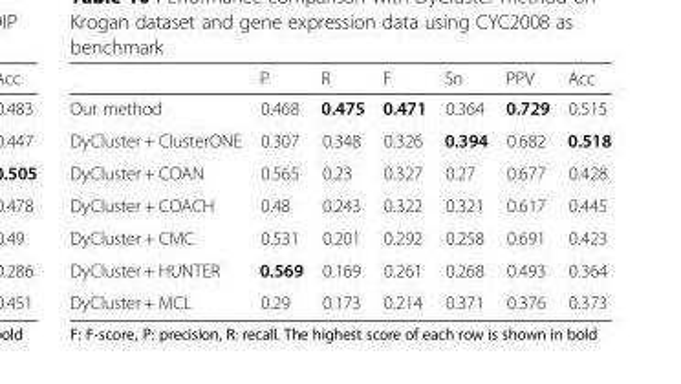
<table><thead><tr><td></td><td>P</td><td>R</td><td>F</td><td>Sn</td><td>PPV</td><td>Acc</td></tr></thead><tbody><tr><td>Our method</td><td>0.468</td><td>0.475</td><td>0.471</td><td>0.364</td><td>0.729</td><td>0.515</td></tr><tr><td>DyCluster + ClusterONE</td><td>0.307</td><td>0.348</td><td>0.326</td><td>0.394</td><td>0.682</td><td>0.518</td></tr><tr><td>DyCluster + COAN</td><td>0.565</td><td>0.23</td><td>0.327</td><td>0.27</td><td>0.677</td><td>0.428</td></tr><tr><td>DyCluster + COACH</td><td>0.48</td><td>0.243</td><td>0.322</td><td>0.321</td><td>0.617</td><td>0.445</td></tr><tr><td>DyCluster + CMC</td><td>0.531</td><td>0.201</td><td>0.292</td><td>0.258</td><td>0.691</td><td>0.423</td></tr><tr><td>DyCluster + HUNTER</td><td>0.569</td><td>0.169</td><td>0.261</td><td>0.268</td><td>0.493</td><td>0.364</td></tr><tr><td>DyCluster + MCL</td><td>0.29</td><td>0.173</td><td>0.214</td><td>0.371</td><td>0.376</td><td>0.373</td></tr></tbody></table>